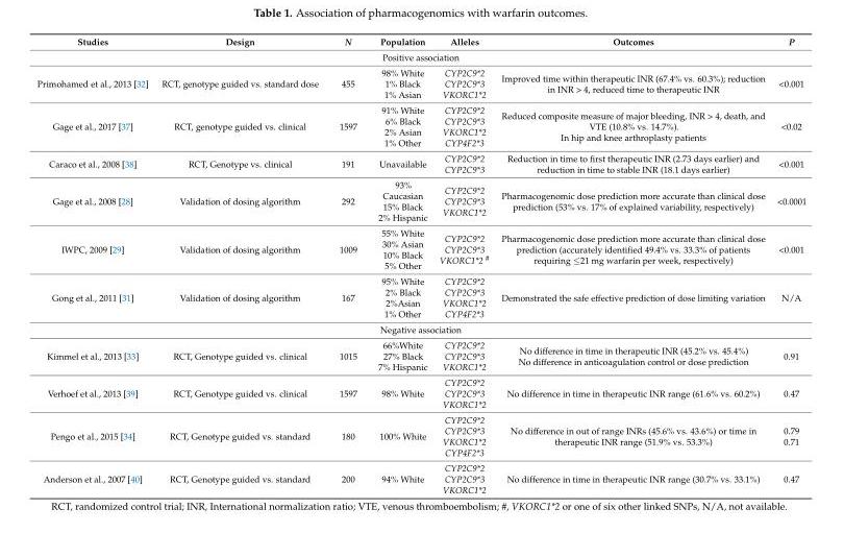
<table><thead><tr><td>Studies</td><td>Design</td><td>N</td><td>Population</td><td>Alleles</td><td>Outcomes</td><td>P</td></tr></thead><tbody><tr><td colspan="7">Positive association</td></tr><tr><td>Primohamed et al., 2013 [32]</td><td>RCT, genotype guided vs. standard dose</td><td>455</td><td>98% White 1% Black 1% Asian</td><td>CYP2C9*2 CYP2C9*3 VKORC1*2</td><td>Improved time within therapeutic INR (67.4% vs. 60.3%); reduction in INR &gt; 4, reduced time to therapeutic INR</td><td>&lt;0.001</td></tr><tr><td>Gage et al., 2017 [37]</td><td>RCT, genotype guided vs. clinical</td><td>1597</td><td>91% White 6% Black 2% Asian 1% Other</td><td>CYP2C9*2 CYP2C9*3 VKORC1*2 CYP4F2*3</td><td>Reduced composite measure of major bleeding, INR &gt; 4, death, and VTE (10.8% vs. 14.7%). In hip and knee arthroplasty patients</td><td>&lt;0.02</td></tr><tr><td>Caraco et al., 2008 [38]</td><td>RCT, Genotype vs. clinical</td><td>191</td><td>Unavailable</td><td>CYP2C9*2 CYP2C9*3</td><td>Reduction in time to first therapeutic INR (2.73 days earlier) and reduction in time to stable INR (18.1 days earlier)</td><td>&lt;0.001</td></tr><tr><td>Gage et al., 2008 [28]</td><td>Validation of dosing algorithm</td><td>292</td><td>93% Caucasian 15% Black 2% Hispanic</td><td>CYP2C9*2 CYP2C9*3 VKORC1*2</td><td>Pharmacogenomic dose prediction more accurate than clinical dose prediction (53% vs. 17% of explained variability, respectively)</td><td>&lt;0.0001</td></tr><tr><td>IWPC, 2009 [29]</td><td>Validation of dosing algorithm</td><td>1009</td><td>55% White 30% Asian 10% Black 5% Other</td><td>CYP2C9*2 CYP2C9*3 VKORC1*2 <sup>#</sup></td><td>Pharmacogenomic dose prediction more accurate than clinical dose prediction (accurately identified 49.4% vs. 33.3% of patients requiring ≤21 mg warfarin per week, respectively)</td><td>&lt;0.001</td></tr><tr><td>Gong et al., 2011 [31]</td><td>Validation of dosing algorithm</td><td>167</td><td>95% White 2% Black 2%Asian 1% Other</td><td>CYP2C9*2 CYP2C9*3 VKORC1*2 CYP4F2*3</td><td>Demonstrated the safe effective prediction of dose limiting variation</td><td>N/A</td></tr><tr><td colspan="7">Negative association</td></tr><tr><td>Kimmel et al., 2013 [33]</td><td>RCT, Genotype guided vs. clinical</td><td>1015</td><td>66%White 27% Black 7% Hispanic</td><td>CYP2C9*2 CYP2C9*3 VKORC1*2</td><td>No difference in time in therapeutic INR (45.2% vs. 45.4%) No difference in anticoagulation control or dose prediction</td><td>0.91</td></tr><tr><td>Verhoef et al., 2013 [39]</td><td>RCT, Genotype guided vs. clinical</td><td>1597</td><td>98% White</td><td>CYP2C9*2 CYP2C9*3 VKORC1*2</td><td>No difference in time in therapeutic INR range (61.6% vs. 60.2%)</td><td>0.47</td></tr><tr><td>Pengo et al., 2015 [34]</td><td>RCT, Genotype guided vs. standard</td><td>180</td><td>100% White</td><td>CYP2C9*2 CYP2C9*3 VKORC1*2 CYP4F2*3</td><td>No difference in out of range INRs (45.6% vs. 43.6%) or time in therapeutic INR range (51.9% vs. 53.3%)</td><td>0.79 0.71</td></tr><tr><td>Anderson et al., 2007 [40]</td><td>RCT, Genotype guided vs. standard</td><td>200</td><td>94% White</td><td>CYP2C9*2 CYP2C9*3 VKORC1*2</td><td>No difference in time in therapeutic INR range (30.7% vs. 33.1%)</td><td>0.47</td></tr></tbody></table>